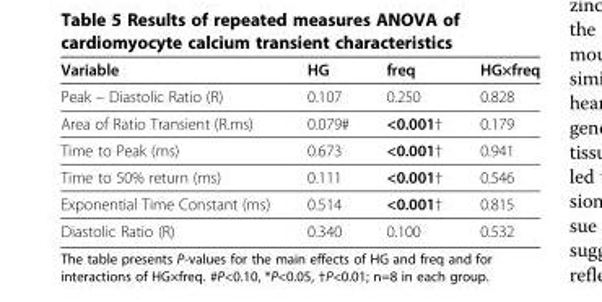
<table><thead><tr><td>Variable</td><td>HG</td><td>freq</td><td>HG×freq</td></tr></thead><tbody><tr><td>Peak – Diastolic Ratio (R)</td><td>0.107</td><td>0.250</td><td>0.828</td></tr><tr><td>Area of Ratio Transient (R.ms)</td><td>0.079#</td><td>&lt;0.001†</td><td>0.179</td></tr><tr><td>Time to Peak (ms)</td><td>0.673</td><td>&lt;0.001†</td><td>0.941</td></tr><tr><td>Time to 50% return (ms)</td><td>0.111</td><td>&lt;0.001†</td><td>0.546</td></tr><tr><td>Exponential Time Constant (ms)</td><td>0.514</td><td>&lt;0.001†</td><td>0.815</td></tr><tr><td>Diastolic Ratio (R)</td><td>0.340</td><td>0.100</td><td>0.532</td></tr></tbody></table>